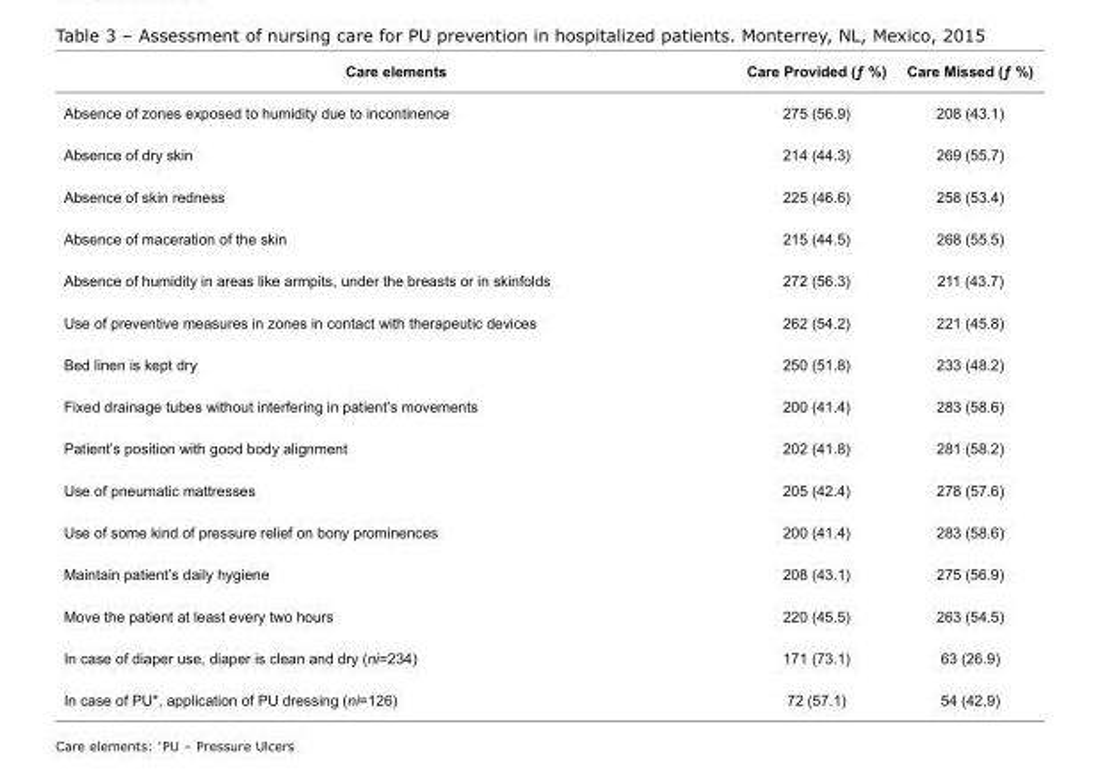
<table><tbody><tr><td>Care elements</td><td>Care Provided (ƒ %)</td><td>Care Missed (ƒ %)</td></tr><tr><td>Absence of zones exposed to humidity due to incontinence</td><td>275 (56.9)</td><td>208 (43.1)</td></tr><tr><td>Absence of dry skin</td><td>214 (44.3)</td><td>269 (55.7)</td></tr><tr><td>Absence of skin redness</td><td>225 (46.6)</td><td>258 (53.4)</td></tr><tr><td>Absence of maceration of the skin</td><td>215 (44.5)</td><td>268 (55.5)</td></tr><tr><td>Absence of humidity in areas like armpits, under the breasts or in skinfolds</td><td>272 (56.3)</td><td>211 (43.7)</td></tr><tr><td>Use of preventive measures in zones in contact with therapeutic devices</td><td>262 (54.2)</td><td>221 (45.8)</td></tr><tr><td>Bed linen is kept dry</td><td>250 (51.8)</td><td>233 (48.2)</td></tr><tr><td>Fixed drainage tubes without interfering in patient’s movements</td><td>200 (41.4)</td><td>283 (58.6)</td></tr><tr><td>Patient’s position with good body alignment</td><td>202 (41.8)</td><td>281 (58.2)</td></tr><tr><td>Use of pneumatic mattresses</td><td>205 (42.4)</td><td>278 (57.6)</td></tr><tr><td>Use of some kind of pressure relief on bony prominences</td><td>200 (41.4)</td><td>283 (58.6)</td></tr><tr><td>Maintain patient’s daily hygiene</td><td>208 (43.1)</td><td>275 (56.9)</td></tr><tr><td>Move the patient at least every two hours</td><td>220 (45.5)</td><td>263 (54.5)</td></tr><tr><td>In case of diaper use, diaper is clean and dry (ni=234)</td><td>171 (73.1)</td><td>63 (26.9)</td></tr><tr><td>In case of PU*, application of PU dressing (ni=126)</td><td>72 (57.1)</td><td>54 (42.9)</td></tr></tbody></table>